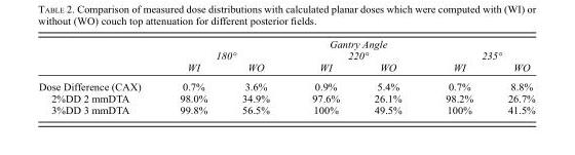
<table><thead><tr><td rowspan="3"></td><td></td><td></td><td rowspan="2" colspan="2">Gantry Angle 220°</td><td></td><td></td></tr><tr><td colspan="2">180°</td><td colspan="2">235°</td></tr><tr><td>WI</td><td>WO</td><td>WI</td><td>WO</td><td>WI</td><td>WO</td></tr></thead><tbody><tr><td>Dose Difference (CAX)</td><td>0.7%</td><td>3.6%</td><td>0.9%</td><td>5.4%</td><td>0.7%</td><td>8.8%</td></tr><tr><td>2%DD 2 mmDTA</td><td>98.0%</td><td>34.9%</td><td>97.6%</td><td>26.1%</td><td>98.2%</td><td>26.7%</td></tr><tr><td>3%DD 3 mmDTA</td><td>99.8%</td><td>56.5%</td><td>100%</td><td>49.5%</td><td>100%</td><td>41.5%</td></tr></tbody></table>